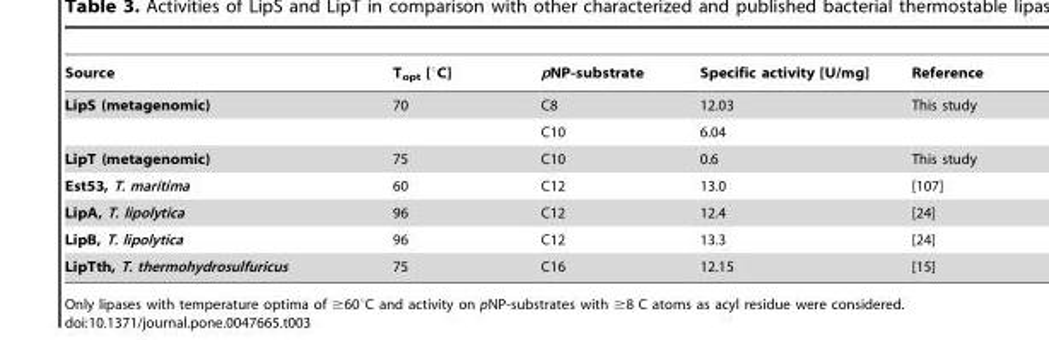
<table><thead><tr><td>Source</td><td>T<sub>opt</sub> [°C]</td><td>pNP-substrate</td><td>Specific activity [U/mg]</td><td>Reference</td></tr></thead><tbody><tr><td rowspan="2">LipS (metagenomic)</td><td>70</td><td>C8</td><td>12.03</td><td>This study</td></tr><tr><td></td><td>C10</td><td>6.04</td><td></td></tr><tr><td>LipT (metagenomic)</td><td>75</td><td>C10</td><td>0.6</td><td>This study</td></tr><tr><td>Est53, T. maritima</td><td>60</td><td>C12</td><td>13.0</td><td>[107]</td></tr><tr><td>LipA, T. lipolytica</td><td>96</td><td>C12</td><td>12.4</td><td>[24]</td></tr><tr><td>LipB, T. lipolytica</td><td>96</td><td>C12</td><td>13.3</td><td>[24]</td></tr><tr><td>LipTth, T. thermohydrosulfuricus</td><td>75</td><td>C16</td><td>12.15</td><td>[15]</td></tr></tbody></table>